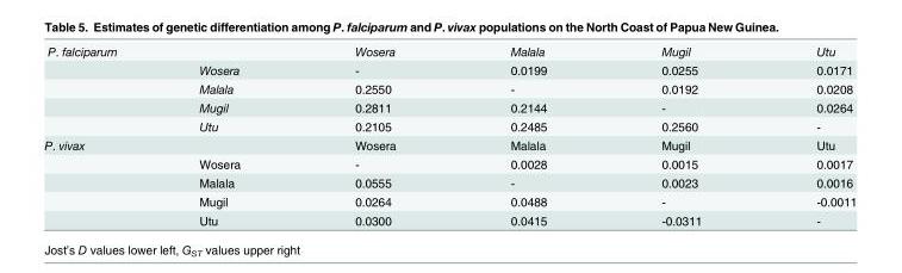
<table><tbody><tr><td colspan="2">P. falciparum</td><td>Wosera</td><td>Malala</td><td>Mugil</td><td>Utu</td></tr><tr><td></td><td>Wosera</td><td>-</td><td>0.0199</td><td>0.0255</td><td>0.0171</td></tr><tr><td></td><td>Malala</td><td>0.2550</td><td>-</td><td>0.0192</td><td>0.0208</td></tr><tr><td></td><td>Mugil</td><td>0.2811</td><td>0.2144</td><td>-</td><td>0.0264</td></tr><tr><td></td><td>Utu</td><td>0.2105</td><td>0.2485</td><td>0.2560</td><td>-</td></tr><tr><td rowspan="5">P. vivax</td><td></td><td>Wosera</td><td>Malala</td><td>Mugil</td><td>Utu</td></tr><tr><td>Wosera</td><td>-</td><td>0.0028</td><td>0.0015</td><td>0.0017</td></tr><tr><td>Malala</td><td>0.0555</td><td>-</td><td>0.0023</td><td>0.0016</td></tr><tr><td>Mugil</td><td>0.0264</td><td>0.0488</td><td>-</td><td>-0.0011</td></tr><tr><td>Utu</td><td>0.0300</td><td>0.0415</td><td>-0.0311</td><td>-</td></tr></tbody></table>